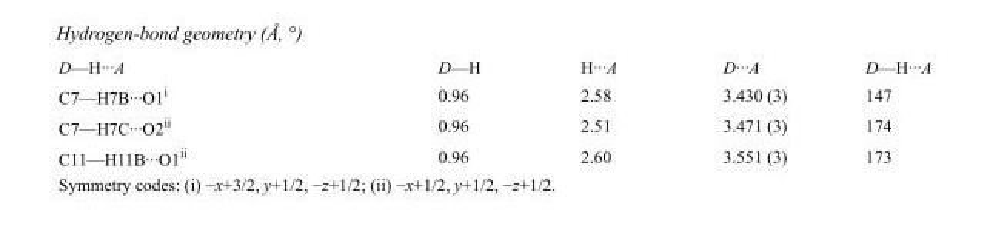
<table><tbody><tr><td>D—H···A</td><td>D—H</td><td>H···A</td><td>D···A</td><td>D—H···A</td></tr><tr><td>C7—H7B···O1<sup>i</sup></td><td>0.96</td><td>2.58</td><td>3.430 (3)</td><td>147</td></tr><tr><td>C7—H7C···O2<sup>ii</sup></td><td>0.96</td><td>2.51</td><td>3.471 (3)</td><td>174</td></tr><tr><td>C11—H11B···O1<sup>ii</sup></td><td>0.96</td><td>2.60</td><td>3.551 (3)</td><td>173</td></tr></tbody></table>